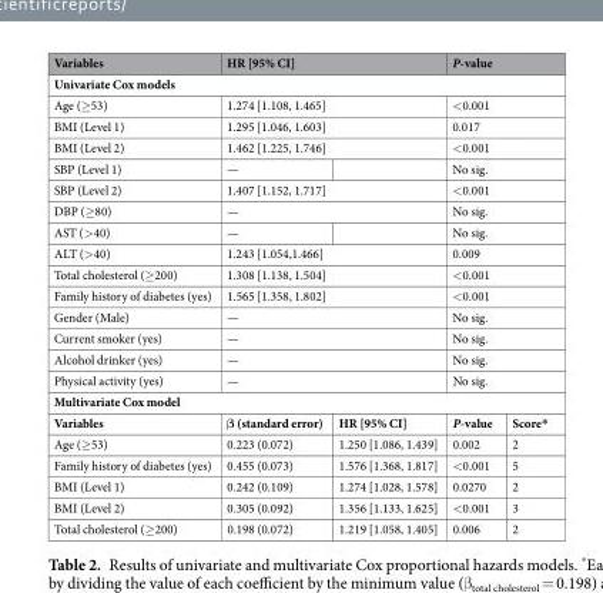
<table><thead><tr><td>Variables</td><td colspan="2">HR [95% CI]</td><td colspan="2">P-value</td></tr></thead><tbody><tr><td colspan="5">Univariate Cox models</td></tr><tr><td>Age (≥53)</td><td colspan="2">1.274 [1.108, 1.465]</td><td colspan="2">&lt;0.001</td></tr><tr><td>BMI (Level 1)</td><td colspan="2">1.295 [1.046, 1.603]</td><td colspan="2">0.017</td></tr><tr><td>BMI (Level 2)</td><td colspan="2">1.462 [1.225, 1.746]</td><td colspan="2">&lt;0.001</td></tr><tr><td>SBP (Level 1)</td><td>—</td><td></td><td colspan="2">No sig.</td></tr><tr><td>SBP (Level 2)</td><td colspan="2">1.407 [1.152, 1.717]</td><td colspan="2">&lt;0.001</td></tr><tr><td>DBP (≥80)</td><td colspan="2">—</td><td colspan="2">No sig.</td></tr><tr><td>AST (&gt;40)</td><td>—</td><td></td><td colspan="2">No sig.</td></tr><tr><td>ALT (&gt;40)</td><td colspan="2">1.243 [1.054,1.466]</td><td colspan="2">0.009</td></tr><tr><td>Total cholesterol (≥200)</td><td colspan="2">1.308 [1.138, 1.504]</td><td colspan="2">&lt;0.001</td></tr><tr><td>Family history of diabetes (yes)</td><td colspan="2">1.565 [1.358, 1.802]</td><td colspan="2">&lt;0.001</td></tr><tr><td>Gender (Male)</td><td colspan="2">—</td><td colspan="2">No sig.</td></tr><tr><td>Current smoker (yes)</td><td colspan="2">—</td><td colspan="2">No sig.</td></tr><tr><td>Alcohol drinker (yes)</td><td colspan="2">—</td><td colspan="2">No sig.</td></tr><tr><td>Physical activity (yes)</td><td colspan="2">—</td><td colspan="2">No sig.</td></tr><tr><td colspan="5">Multivariate Cox model</td></tr><tr><td>Variables</td><td>β (standard error)</td><td>HR [95% CI]</td><td>P-value</td><td>Score*</td></tr><tr><td>Age (≥53)</td><td>0.223 (0.072)</td><td>1.250 [1.086, 1.439]</td><td>0.002</td><td>2</td></tr><tr><td>Family history of diabetes (yes)</td><td>0.455 (0.073)</td><td>1.576 [1.368, 1.817]</td><td>&lt;0.001</td><td>5</td></tr><tr><td>BMI (Level 1)</td><td>0.242 (0.109)</td><td>1.274 [1.028, 1.578]</td><td>0.0270</td><td>2</td></tr><tr><td>BMI (Level 2)</td><td>0.305 (0.092)</td><td>1.356 [1.133, 1.625]</td><td>&lt;0.001</td><td>3</td></tr><tr><td>Total cholesterol (≥200)</td><td>0.198 (0.072)</td><td>1.219 [1.058, 1.405]</td><td>0.006</td><td>2</td></tr></tbody></table>